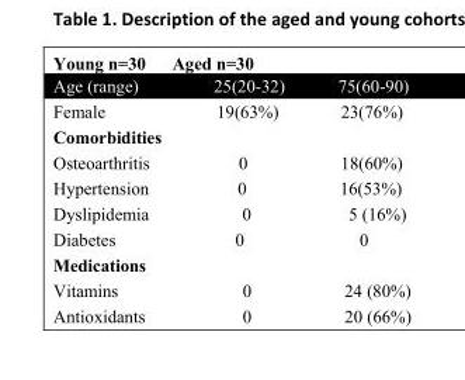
<table><thead><tr><td rowspan="2">Young n=30 Age (range)</td><td rowspan="2">Aged n=30 25(20-32)</td><td rowspan="2">75(60-90)</td></tr><tr></tr></thead><tbody><tr><td>Female</td><td>19(63%)</td><td>23(76%)</td></tr><tr><td colspan="3">Comorbidities</td></tr><tr><td>Osteoarthritis</td><td>0</td><td>18(60%)</td></tr><tr><td>Hypertension</td><td>0</td><td>16(53%)</td></tr><tr><td>Dyslipidemia</td><td>0</td><td>5 (16%)</td></tr><tr><td>Diabetes</td><td>0</td><td>0</td></tr><tr><td colspan="3">Medications</td></tr><tr><td>Vitamins</td><td>0</td><td>24 (80%)</td></tr><tr><td>Antioxidants</td><td>0</td><td>20 (66%)</td></tr></tbody></table>